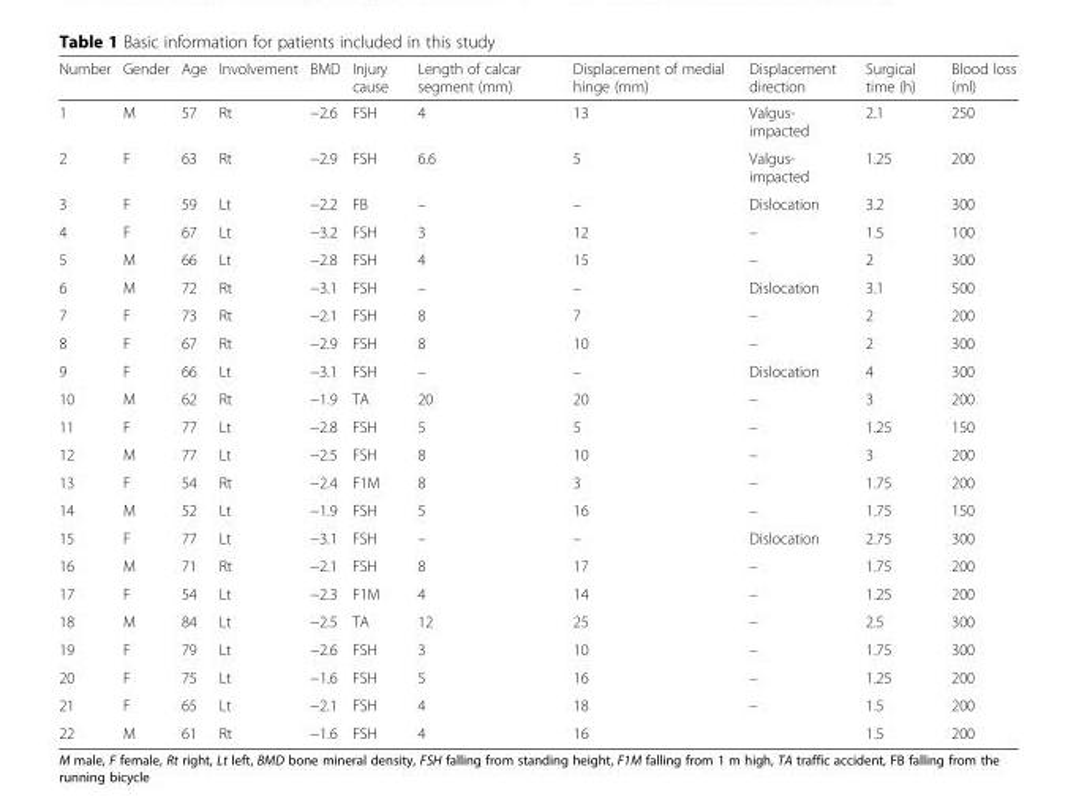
<table><thead><tr><td>Number</td><td>Gender</td><td>Age</td><td>Involvement</td><td>BMD</td><td>Injury cause</td><td>Length of calcar segment (mm)</td><td>Displacement of medial hinge (mm)</td><td>Displacement direction</td><td>Surgical time (h)</td><td>Blood loss (ml)</td></tr></thead><tbody><tr><td>1</td><td>M</td><td>57</td><td>Rt</td><td>−2.6</td><td>FSH</td><td>4</td><td>13</td><td>Valgus- impacted</td><td>2.1</td><td>250</td></tr><tr><td>2</td><td>F</td><td>63</td><td>Rt</td><td>−2.9</td><td>FSH</td><td>6.6</td><td>5</td><td>Valgus- impacted</td><td>1.25</td><td>200</td></tr><tr><td>3</td><td>F</td><td>59</td><td>Lt</td><td>−2.2</td><td>FB</td><td>–</td><td>–</td><td>Dislocation</td><td>3.2</td><td>300</td></tr><tr><td>4</td><td>F</td><td>67</td><td>Lt</td><td>−3.2</td><td>FSH</td><td>3</td><td>12</td><td>–</td><td>1.5</td><td>100</td></tr><tr><td>5</td><td>M</td><td>66</td><td>Lt</td><td>−2.8</td><td>FSH</td><td>4</td><td>15</td><td>–</td><td>2</td><td>300</td></tr><tr><td>6</td><td>M</td><td>72</td><td>Rt</td><td>−3.1</td><td>FSH</td><td>–</td><td>–</td><td>Dislocation</td><td>3.1</td><td>500</td></tr><tr><td>7</td><td>F</td><td>73</td><td>Rt</td><td>−2.1</td><td>FSH</td><td>8</td><td>7</td><td>–</td><td>2</td><td>200</td></tr><tr><td>8</td><td>F</td><td>67</td><td>Rt</td><td>−2.9</td><td>FSH</td><td>8</td><td>10</td><td>–</td><td>2</td><td>300</td></tr><tr><td>9</td><td>F</td><td>66</td><td>Lt</td><td>−3.1</td><td>FSH</td><td>–</td><td>–</td><td>Dislocation</td><td>4</td><td>300</td></tr><tr><td>10</td><td>M</td><td>62</td><td>Rt</td><td>−1.9</td><td>TA</td><td>20</td><td>20</td><td>–</td><td>3</td><td>200</td></tr><tr><td>11</td><td>F</td><td>77</td><td>Lt</td><td>−2.8</td><td>FSH</td><td>5</td><td>5</td><td>–</td><td>1.25</td><td>150</td></tr><tr><td>12</td><td>M</td><td>77</td><td>Lt</td><td>−2.5</td><td>FSH</td><td>8</td><td>10</td><td>–</td><td>3</td><td>200</td></tr><tr><td>13</td><td>F</td><td>54</td><td>Rt</td><td>−2.4</td><td>F1M</td><td>8</td><td>3</td><td>–</td><td>1.75</td><td>200</td></tr><tr><td>14</td><td>M</td><td>52</td><td>Lt</td><td>−1.9</td><td>FSH</td><td>5</td><td>16</td><td>–</td><td>1.75</td><td>150</td></tr><tr><td>15</td><td>F</td><td>77</td><td>Lt</td><td>−3.1</td><td>FSH</td><td>–</td><td>–</td><td>Dislocation</td><td>2.75</td><td>300</td></tr><tr><td>16</td><td>M</td><td>71</td><td>Rt</td><td>−2.1</td><td>FSH</td><td>8</td><td>17</td><td>–</td><td>1.75</td><td>200</td></tr><tr><td>17</td><td>F</td><td>54</td><td>Lt</td><td>−2.3</td><td>F1M</td><td>4</td><td>14</td><td>–</td><td>1.25</td><td>200</td></tr><tr><td>18</td><td>M</td><td>84</td><td>Lt</td><td>−2.5</td><td>TA</td><td>12</td><td>25</td><td>–</td><td>2.5</td><td>300</td></tr><tr><td>19</td><td>F</td><td>79</td><td>Lt</td><td>−2.6</td><td>FSH</td><td>3</td><td>10</td><td>–</td><td>1.75</td><td>300</td></tr><tr><td>20</td><td>F</td><td>75</td><td>Lt</td><td>−1.6</td><td>FSH</td><td>5</td><td>16</td><td>–</td><td>1.25</td><td>200</td></tr><tr><td>21</td><td>F</td><td>65</td><td>Lt</td><td>−2.1</td><td>FSH</td><td>4</td><td>18</td><td>–</td><td>1.5</td><td>200</td></tr><tr><td>22</td><td>M</td><td>61</td><td>Rt</td><td>−1.6</td><td>FSH</td><td>4</td><td>16</td><td></td><td>1.5</td><td>200</td></tr></tbody></table>